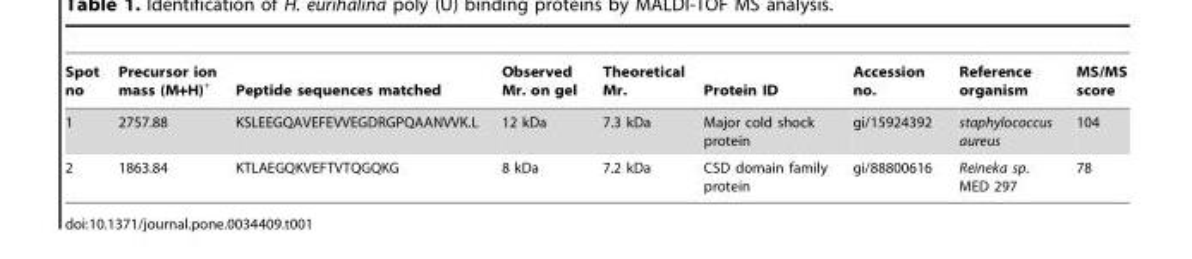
<table><thead><tr><td>Spot no</td><td>Precursor ion mass (M+H)<sup>+</sup></td><td>Peptide sequences matched</td><td>Observed Mr. on gel</td><td>Theoretical Mr.</td><td>Protein ID</td><td>Accession no.</td><td>Reference organism</td><td>MS/MS score</td></tr></thead><tbody><tr><td>1</td><td>2757.88</td><td>KSLEEGQAVEFEVVEGDRGPQAANVVK.L</td><td>12 kDa</td><td>7.3 kDa</td><td>Major cold shock protein</td><td>gi/15924392</td><td>staphylococcus aureus</td><td>104</td></tr><tr><td>2</td><td>1863.84</td><td>KTLAEGQKVEFTVTQGQKG</td><td>8 kDa</td><td>7.2 kDa</td><td>CSD domain family protein</td><td>gi/88800616</td><td>Reineka sp. MED 297</td><td>78</td></tr></tbody></table>